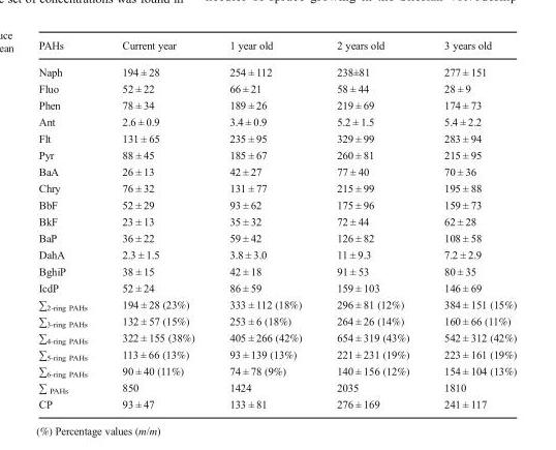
<table><thead><tr><td>PAHs</td><td>Current year</td><td>1 year old</td><td>2 years old</td><td>3 years old</td></tr></thead><tbody><tr><td>Naph</td><td>194 ± 28</td><td>254 ± 112</td><td>238±81</td><td>277 ± 151</td></tr><tr><td>Fluo</td><td>52 ± 22</td><td>66 ± 21</td><td>58 ± 44</td><td>28 ± 9</td></tr><tr><td>Phen</td><td>78 ± 34</td><td>189 ± 26</td><td>219 ± 69</td><td>174 ± 73</td></tr><tr><td>Ant</td><td>2.6 ± 0.9</td><td>3.4 ± 0.9</td><td>5.2 ± 1.5</td><td>5.4 ± 2.2</td></tr><tr><td>Flt</td><td>131 ± 65</td><td>235 ± 95</td><td>329 ± 99</td><td>283 ± 94</td></tr><tr><td>Pyr</td><td>88 ± 45</td><td>185 ± 67</td><td>260 ± 81</td><td>215 ± 95</td></tr><tr><td>BaA</td><td>26 ± 13</td><td>42 ± 27</td><td>77 ± 40</td><td>70 ± 36</td></tr><tr><td>Chry</td><td>76 ± 32</td><td>131 ± 77</td><td>215 ± 99</td><td>195 ± 88</td></tr><tr><td>BbF</td><td>52 ± 29</td><td>93 ± 62</td><td>175 ± 96</td><td>159 ± 73</td></tr><tr><td>BkF</td><td>23 ± 13</td><td>35 ± 32</td><td>72 ± 44</td><td>62 ± 28</td></tr><tr><td>BaP</td><td>36 ± 22</td><td>59 ± 42</td><td>126 ± 82</td><td>108 ± 58</td></tr><tr><td>DahA</td><td>2.3 ± 1.5</td><td>3.8 ± 3.0</td><td>11 ± 9.3</td><td>7.2 ± 2.9</td></tr><tr><td>BghiP</td><td>38 ± 15</td><td>42 ± 18</td><td>91 ± 53</td><td>80 ± 35</td></tr><tr><td>IcdP</td><td>52 ± 24</td><td>86 ± 59</td><td>159 ± 103</td><td>146 ± 69</td></tr><tr><td>∑<sub>2-ring PAHs</sub></td><td>194 ± 28 (23%)</td><td>333 ± 112 (18%)</td><td>296 ± 81 (12%)</td><td>384 ± 151 (15%)</td></tr><tr><td>∑<sub>3-ring PAHs</sub></td><td>132 ± 57 (15%)</td><td>253 ± 6 (18%)</td><td>264 ± 26 (14%)</td><td>160 ± 66 (11%)</td></tr><tr><td>∑<sub>4-ring PAHs</sub></td><td>322 ± 155 (38%)</td><td>405 ± 266 (42%)</td><td>654 ± 319 (43%)</td><td>542 ± 312 (42%)</td></tr><tr><td>∑<sub>5-ring PAHs</sub></td><td>113 ± 66 (13%)</td><td>93 ± 139 (13%)</td><td>221 ± 231 (19%)</td><td>223 ± 161 (19%)</td></tr><tr><td>∑<sub>6-ring PAHs</sub></td><td>90 ± 40 (11%)</td><td>74 ± 78 (9%)</td><td>140 ± 156 (12%)</td><td>154 ± 104 (13%)</td></tr><tr><td>∑ <sub>PAHs</sub></td><td>850</td><td>1424</td><td>2035</td><td>1810</td></tr><tr><td>CP</td><td>93 ± 47</td><td>133 ± 81</td><td>276 ± 169</td><td>241 ± 117</td></tr></tbody></table>